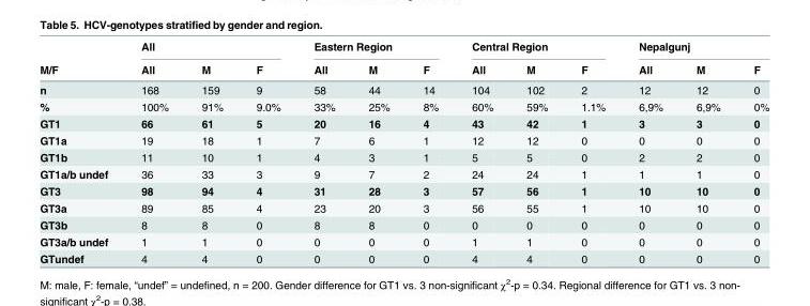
<table><thead><tr><td rowspan="2">M/F</td><td colspan="3">All</td><td colspan="3">Eastern Region</td><td colspan="3">Central Region</td><td colspan="3">Nepalgunj</td></tr><tr><td>All</td><td>M</td><td>F</td><td>All</td><td>M</td><td>F</td><td>All</td><td>M</td><td>F</td><td>All</td><td>M</td><td>F</td></tr></thead><tbody><tr><td>n</td><td>168</td><td>159</td><td>9</td><td>58</td><td>44</td><td>14</td><td>104</td><td>102</td><td>2</td><td>12</td><td>12</td><td>0</td></tr><tr><td>%</td><td>100%</td><td>91%</td><td>9.0%</td><td>33%</td><td>25%</td><td>8%</td><td>60%</td><td>59%</td><td>1.1%</td><td>6,9%</td><td>6,9%</td><td>0%</td></tr><tr><td>GT1</td><td>66</td><td>61</td><td>5</td><td>20</td><td>16</td><td>4</td><td>43</td><td>42</td><td>1</td><td>3</td><td>3</td><td>0</td></tr><tr><td>GT1a</td><td>19</td><td>18</td><td>1</td><td>7</td><td>6</td><td>1</td><td>12</td><td>12</td><td>0</td><td>0</td><td>0</td><td>0</td></tr><tr><td>GT1b</td><td>11</td><td>10</td><td>1</td><td>4</td><td>3</td><td>1</td><td>5</td><td>5</td><td>0</td><td>2</td><td>2</td><td>0</td></tr><tr><td>GT1a/b undef</td><td>36</td><td>33</td><td>3</td><td>9</td><td>7</td><td>2</td><td>24</td><td>24</td><td>1</td><td>1</td><td>1</td><td>0</td></tr><tr><td>GT3</td><td>98</td><td>94</td><td>4</td><td>31</td><td>28</td><td>3</td><td>57</td><td>56</td><td>1</td><td>10</td><td>10</td><td>0</td></tr><tr><td>GT3a</td><td>89</td><td>85</td><td>4</td><td>23</td><td>20</td><td>3</td><td>56</td><td>55</td><td>1</td><td>10</td><td>10</td><td>0</td></tr><tr><td>GT3b</td><td>8</td><td>8</td><td>0</td><td>8</td><td>8</td><td>0</td><td>0</td><td>0</td><td>0</td><td>0</td><td>0</td><td>0</td></tr><tr><td>GT3a/b undef</td><td>1</td><td>1</td><td>0</td><td>0</td><td>0</td><td>0</td><td>1</td><td>1</td><td>0</td><td>0</td><td>0</td><td>0</td></tr><tr><td>GTundef</td><td>4</td><td>4</td><td>0</td><td>0</td><td>0</td><td>0</td><td>4</td><td>4</td><td>0</td><td>0</td><td>0</td><td>0</td></tr></tbody></table>